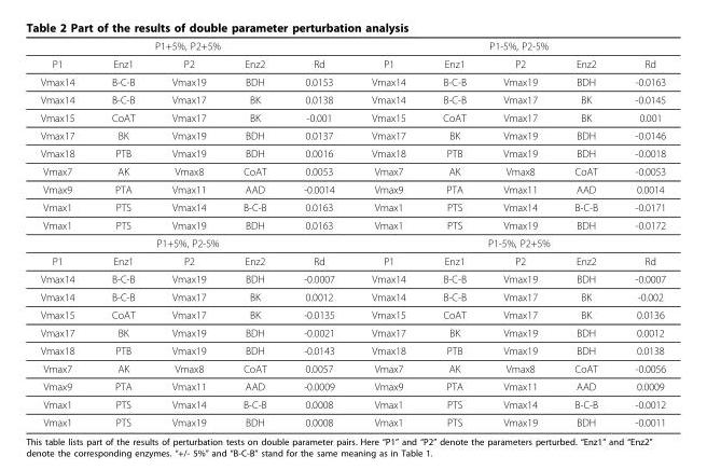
<table><thead><tr><td colspan="5">P1+5%, P2+5%</td><td colspan="5">P1-5%, P2-5%</td></tr><tr><td>P1</td><td>Enz1</td><td>P2</td><td>Enz2</td><td>Rd</td><td>P1</td><td>Enz1</td><td>P2</td><td>Enz2</td><td>Rd</td></tr></thead><tbody><tr><td>Vmax14</td><td>B-C-B</td><td>Vmax19</td><td>BDH</td><td>0.0153</td><td>Vmax14</td><td>B-C-B</td><td>Vmax19</td><td>BDH</td><td>-0.0163</td></tr><tr><td>Vmax14</td><td>B-C-B</td><td>Vmax17</td><td>BK</td><td>0.0138</td><td>Vmax14</td><td>B-C-B</td><td>Vmax17</td><td>BK</td><td>-0.0145</td></tr><tr><td>Vmax15</td><td>CoAT</td><td>Vmax17</td><td>BK</td><td>-0.001</td><td>Vmax15</td><td>CoAT</td><td>Vmax17</td><td>BK</td><td>0.001</td></tr><tr><td>Vmax17</td><td>BK</td><td>Vmax19</td><td>BDH</td><td>0.0137</td><td>Vmax17</td><td>BK</td><td>Vmax19</td><td>BDH</td><td>-0.0146</td></tr><tr><td>Vmax18</td><td>PTB</td><td>Vmax19</td><td>BDH</td><td>0.0016</td><td>Vmax18</td><td>PTB</td><td>Vmax19</td><td>BDH</td><td>-0.0018</td></tr><tr><td>Vmax7</td><td>AK</td><td>Vmax8</td><td>CoAT</td><td>0.0053</td><td>Vmax7</td><td>AK</td><td>Vmax8</td><td>CoAT</td><td>-0.0053</td></tr><tr><td>Vmax9</td><td>PTA</td><td>Vmax11</td><td>AAD</td><td>-0.0014</td><td>Vmax9</td><td>PTA</td><td>Vmax11</td><td>AAD</td><td>0.0014</td></tr><tr><td>Vmax1</td><td>PTS</td><td>Vmax14</td><td>B-C-B</td><td>0.0163</td><td>Vmax1</td><td>PTS</td><td>Vmax14</td><td>B-C-B</td><td>-0.0171</td></tr><tr><td>Vmax1</td><td>PTS</td><td>Vmax19</td><td>BDH</td><td>0.0163</td><td>Vmax1</td><td>PTS</td><td>Vmax19</td><td>BDH</td><td>-0.0172</td></tr><tr><td colspan="5">P1+5%, P2-5%</td><td colspan="5">P1-5%, P2+5%</td></tr><tr><td>P1</td><td>Enz1</td><td>P2</td><td>Enz2</td><td>Rd</td><td>P1</td><td>Enz1</td><td>P2</td><td>Enz2</td><td>Rd</td></tr><tr><td>Vmax14</td><td>B-C-B</td><td>Vmax19</td><td>BDH</td><td>-0.0007</td><td>Vmax14</td><td>B-C-B</td><td>Vmax19</td><td>BDH</td><td>-0.0007</td></tr><tr><td>Vmax14</td><td>B-C-B</td><td>Vmax17</td><td>BK</td><td>0.0012</td><td>Vmax14</td><td>B-C-B</td><td>Vmax17</td><td>BK</td><td>-0.002</td></tr><tr><td>Vmax15</td><td>CoAT</td><td>Vmax17</td><td>BK</td><td>-0.0135</td><td>Vmax15</td><td>CoAT</td><td>Vmax17</td><td>BK</td><td>0.0136</td></tr><tr><td>Vmax17</td><td>BK</td><td>Vmax19</td><td>BDH</td><td>-0.0021</td><td>Vmax17</td><td>BK</td><td>Vmax19</td><td>BDH</td><td>0.0012</td></tr><tr><td>Vmax18</td><td>PTB</td><td>Vmax19</td><td>BDH</td><td>-0.0143</td><td>Vmax18</td><td>PTB</td><td>Vmax19</td><td>BDH</td><td>0.0138</td></tr><tr><td>Vmax7</td><td>AK</td><td>Vmax8</td><td>CoAT</td><td>0.0057</td><td>Vmax7</td><td>AK</td><td>Vmax8</td><td>CoAT</td><td>-0.0056</td></tr><tr><td>Vmax9</td><td>PTA</td><td>Vmax11</td><td>AAD</td><td>-0.0009</td><td>Vmax9</td><td>PTA</td><td>Vmax11</td><td>AAD</td><td>0.0009</td></tr><tr><td>Vmax1</td><td>PTS</td><td>Vmax14</td><td>B-C-B</td><td>0.0008</td><td>Vmax1</td><td>PTS</td><td>Vmax14</td><td>B-C-B</td><td>-0.0012</td></tr><tr><td>Vmax1</td><td>PTS</td><td>Vmax19</td><td>BDH</td><td>0.0008</td><td>Vmax1</td><td>PTS</td><td>Vmax19</td><td>BDH</td><td>-0.0011</td></tr></tbody></table>